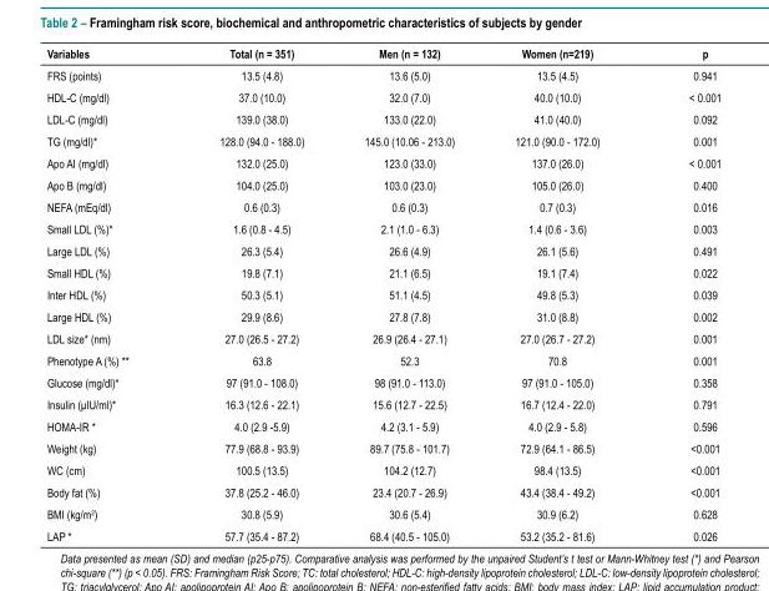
<table><thead><tr><td>Variables</td><td>Total (n = 351)</td><td>Men (n = 132)</td><td>Women (n=219)</td><td>p</td></tr></thead><tbody><tr><td>FRS (points)</td><td>13.5 (4.8)</td><td>13.6 (5.0)</td><td>13.5 (4.5)</td><td>0.941</td></tr><tr><td>HDL-C (mg/dl)</td><td>37.0 (10.0)</td><td>32.0 (7.0)</td><td>40.0 (10.0)</td><td>&lt; 0.001</td></tr><tr><td>LDL-C (mg/dl)</td><td>139.0 (38.0)</td><td>133.0 (22.0)</td><td>41.0 (40.0)</td><td>0.092</td></tr><tr><td>TG (mg/dl)*</td><td>128.0 (94.0 - 188.0)</td><td>145.0 (10.06 - 213.0)</td><td>121.0 (90.0 - 172.0)</td><td>0.001</td></tr><tr><td>Apo AI (mg/dl)</td><td>132.0 (25.0)</td><td>123.0 (33.0)</td><td>137.0 (26.0)</td><td>&lt; 0.001</td></tr><tr><td>Apo B (mg/dl)</td><td>104.0 (25.0)</td><td>103.0 (23.0)</td><td>105.0 (26.0)</td><td>0.400</td></tr><tr><td>NEFA (mEq/dl)</td><td>0.6 (0.3)</td><td>0.6 (0.3)</td><td>0.7 (0.3)</td><td>0.016</td></tr><tr><td>Small LDL (%)*</td><td>1.6 (0.8 - 4.5)</td><td>2.1 (1.0 - 6.3)</td><td>1.4 (0.6 - 3.6)</td><td>0.003</td></tr><tr><td>Large LDL (%)</td><td>26.3 (5.4)</td><td>26.6 (4.9)</td><td>26.1 (5.6)</td><td>0.491</td></tr><tr><td>Small HDL (%)</td><td>19.8 (7.1)</td><td>21.1 (6.5)</td><td>19.1 (7.4)</td><td>0.022</td></tr><tr><td>Inter HDL (%)</td><td>50.3 (5.1)</td><td>51.1 (4.5)</td><td>49.8 (5.3)</td><td>0.039</td></tr><tr><td>Large HDL (%)</td><td>29.9 (8.6)</td><td>27.8 (7.8)</td><td>31.0 (8.8)</td><td>0.002</td></tr><tr><td>LDL size* (nm)</td><td>27.0 (26.5 - 27.2)</td><td>26.9 (26.4 - 27.1)</td><td>27.0 (26.7 - 27.2)</td><td>0.001</td></tr><tr><td>Phenotype A (%) **</td><td>63.8</td><td>52.3</td><td>70.8</td><td>0.001</td></tr><tr><td>Glucose (mg/dl)*</td><td>97 (91.0 - 108.0)</td><td>98 (91.0 - 113.0)</td><td>97 (91.0 - 105.0)</td><td>0.358</td></tr><tr><td>Insulin (μIU/ml)*</td><td>16.3 (12.6 - 22.1)</td><td>15.6 (12.7 - 22.5)</td><td>16.7 (12.4 - 22.0)</td><td>0.791</td></tr><tr><td>HOMA-IR *</td><td>4.0 (2.9 -5.9)</td><td>4.2 (3.1 - 5.9)</td><td>4.0 (2.9 - 5.8)</td><td>0.596</td></tr><tr><td>Weight (kg)</td><td>77.9 (68.8 - 93.9)</td><td>89.7 (75.8 - 101.7)</td><td>72.9 (64.1 - 86.5)</td><td>&lt;0.001</td></tr><tr><td>WC (cm)</td><td>100.5 (13.5)</td><td>104.2 (12.7)</td><td>98.4 (13.5)</td><td>&lt;0.001</td></tr><tr><td>Body fat (%)</td><td>37.8 (25.2 - 46.0)</td><td>23.4 (20.7 - 26.9)</td><td>43.4 (38.4 - 49.2)</td><td>&lt;0.001</td></tr><tr><td>BMI (kg/m<sup>2</sup>)</td><td>30.8 (5.9)</td><td>30.6 (5.4)</td><td>30.9 (6.2)</td><td>0.628</td></tr><tr><td>LAP *</td><td>57.7 (35.4 - 87.2)</td><td>68.4 (40.5 - 105.0)</td><td>53.2 (35.2 - 81.6)</td><td>0.026</td></tr></tbody></table>